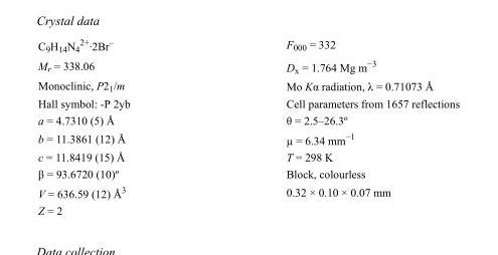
<table><tbody><tr><td>C<sub>9</sub>H<sub>14</sub>N<sub>4</sub> <sup>2+</sup>·2Br<sup>–</sup></td><td>F000 = 332</td></tr><tr><td>M<sub>r</sub> = 338.06</td><td>D<sub>x</sub> = 1.764 Mg m<sup>−3</sup></td></tr><tr><td>Monoclinic, P2<sub>1</sub>/m</td><td>Mo Kα radiation, λ = 0.71073 Å</td></tr><tr><td>Hall symbol: -P 2yb</td><td>Cell parameters from 1657 reflections</td></tr><tr><td>a = 4.7310 (5) Å</td><td>θ = 2.5–26.3º</td></tr><tr><td>b = 11.3861 (12) Å</td><td>µ = 6.34 mm<sup>−1</sup></td></tr><tr><td>c = 11.8419 (15) Å</td><td>T = 298 K</td></tr><tr><td>β = 93.6720 (10)º</td><td>Block, colourless</td></tr><tr><td>V = 636.59 (12) Å<sup>3</sup></td><td>0.32 × 0.10 × 0.07 mm</td></tr><tr><td>Z = 2</td><td></td></tr></tbody></table>